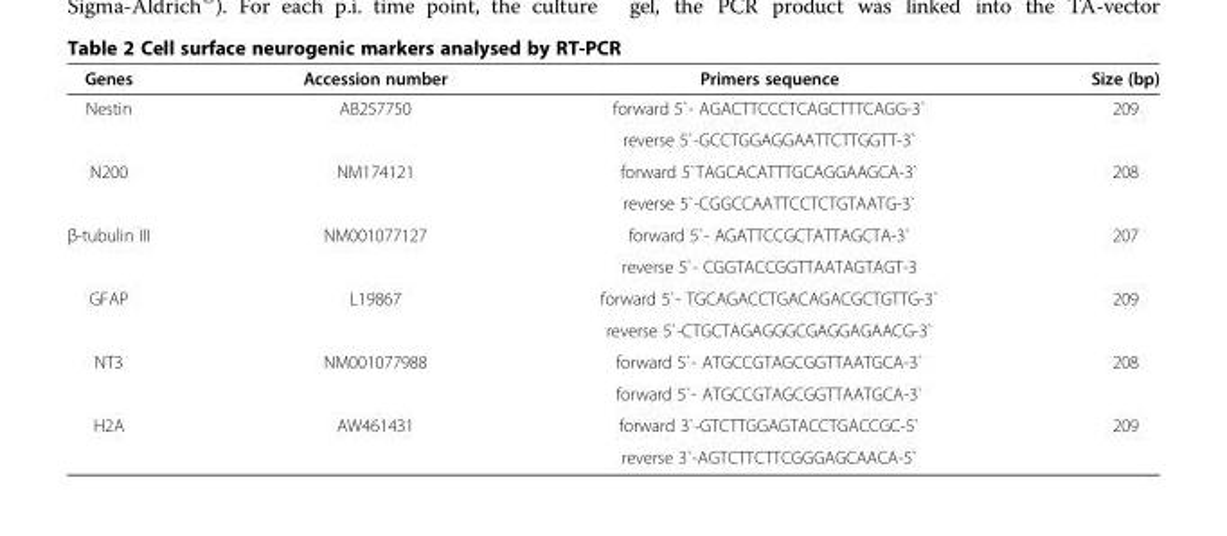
<table><thead><tr><td>Genes</td><td>Accession number</td><td>Primers sequence</td><td>Size (bp)</td></tr></thead><tbody><tr><td rowspan="2">Nestin</td><td rowspan="2">AB257750</td><td>forward 5`- AGACTTCCCTCAGCTTTCAGG-3`</td><td rowspan="2">209</td></tr><tr><td>reverse 5`-GCCTGGAGGAATTCTTGGTT-3`</td></tr><tr><td rowspan="2">N200</td><td rowspan="2">NM174121</td><td>forward 5`TAGCACATTTGCAGGAAGCA-3`</td><td rowspan="2">208</td></tr><tr><td>reverse 5`-CGGCCAATTCCTCTGTAATG-3`</td></tr><tr><td rowspan="2">β-tubulin III</td><td rowspan="2">NM001077127</td><td>forward 5`- AGATTCCGCTATTAGCTA-3`</td><td rowspan="2">207</td></tr><tr><td>reverse 5`- CGGTACCGGTTAATAGTAGT-3</td></tr><tr><td rowspan="2">GFAP</td><td rowspan="2">L19867</td><td>forward 5`- TGCAGACCTGACAGACGCTGTTG-3`</td><td rowspan="2">209</td></tr><tr><td>reverse 5`-CTGCTAGAGGGCGAGGAGAACG-3`</td></tr><tr><td rowspan="2">NT3</td><td rowspan="2">NM001077988</td><td>forward 5`- ATGCCGTAGCGGTTAATGCA-3`</td><td rowspan="2">208</td></tr><tr><td>forward 5`- ATGCCGTAGCGGTTAATGCA-3`</td></tr><tr><td rowspan="2">H2A</td><td rowspan="2">AW461431</td><td>forward 3`-GTCTTGGAGTACCTGACCGC-5`</td><td rowspan="2">209</td></tr><tr><td>reverse 3`-AGTCTTCTTCGGGAGCAACA-5`</td></tr></tbody></table>